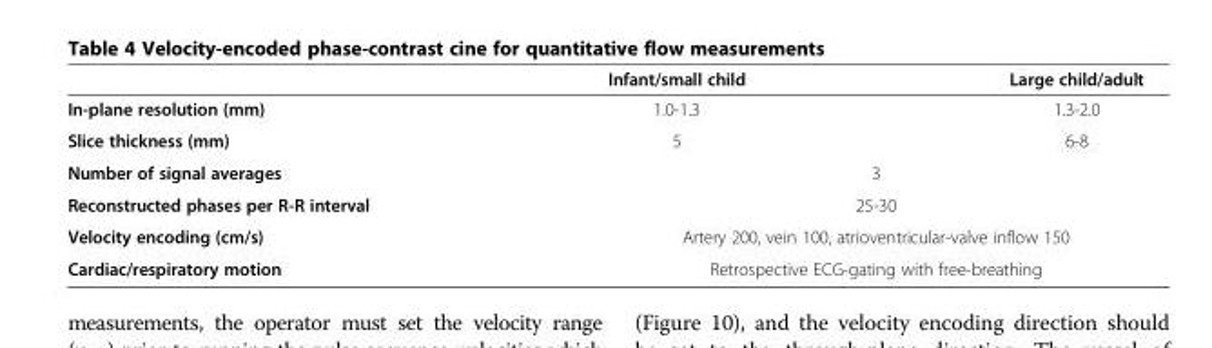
<table><thead><tr><td></td><td>Infant/small child</td><td>Large child/adult</td></tr></thead><tbody><tr><td>In-plane resolution (mm)</td><td>1.0-1.3</td><td>1.3-2.0</td></tr><tr><td>Slice thickness (mm)</td><td>5</td><td>6-8</td></tr><tr><td>Number of signal averages</td><td colspan="2">3</td></tr><tr><td>Reconstructed phases per R-R interval</td><td colspan="2">25-30</td></tr><tr><td>Velocity encoding (cm/s)</td><td colspan="2">Artery 200, vein 100, atrioventricular-valve inflow 150</td></tr><tr><td>Cardiac/respiratory motion</td><td colspan="2">Retrospective ECG-gating with free-breathing</td></tr></tbody></table>